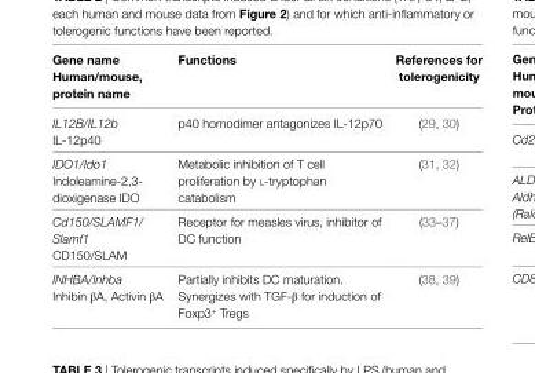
<table><thead><tr><td>Gene name Human/mouse, protein name</td><td>Functions</td><td>References for tolerogenicity</td></tr></thead><tbody><tr><td>IL12B/IL12b IL-12p40</td><td>p40 homodimer antagonizes IL-12p70</td><td>(29, 30)</td></tr><tr><td>IDO1/Ido1 Indoleamine-2,3- dioxigenase IDO</td><td>Metabolic inhibition of T cell proliferation by l-tryptophan catabolism</td><td>(31, 32)</td></tr><tr><td>Cd150/SLAMF1/ Slamf1 CD150/SLAM</td><td>Receptor for measles virus, inhibitor of DC function</td><td>(33–37)</td></tr><tr><td>INHBA/Inhba Inhibin βA, Activin βA</td><td>Partially inhibits DC maturation. Synergizes with TGF-β for induction of Foxp3<sup>+</sup> Tregs</td><td>(38, 39)</td></tr></tbody></table>